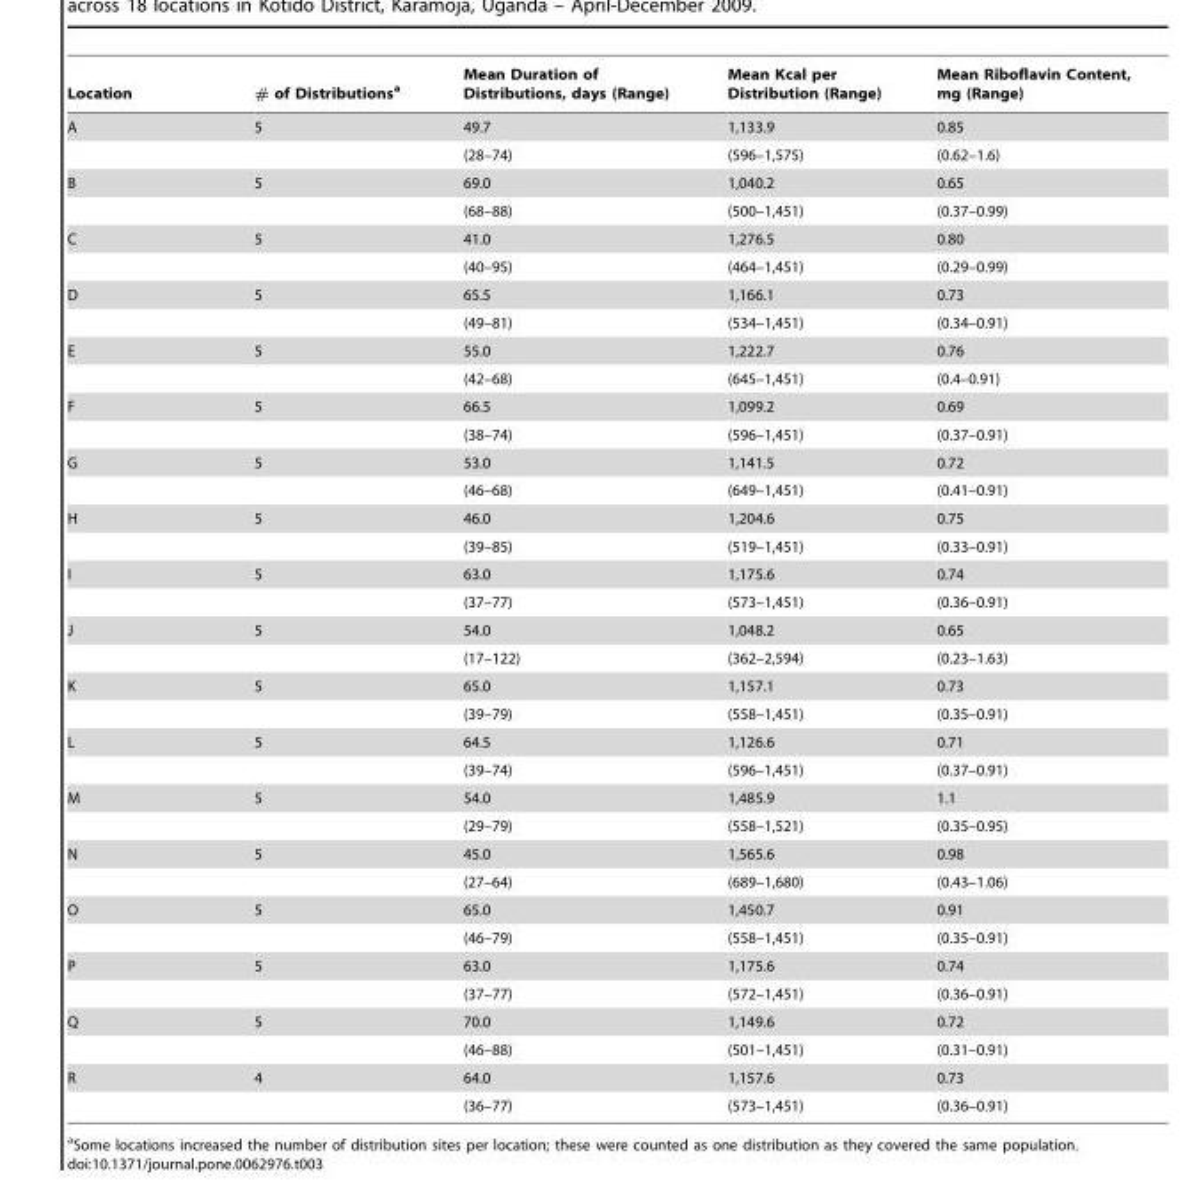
<table><thead><tr><td>Location</td><td># of Distributions<sup>a</sup></td><td>Mean Duration of Distributions, days (Range)</td><td>Mean Kcal per Distribution (Range)</td><td>Mean Riboflavin Content, mg (Range)</td></tr></thead><tbody><tr><td rowspan="2">A</td><td>5</td><td>49.7</td><td>1,133.9</td><td>0.85</td></tr><tr><td></td><td>(28–74)</td><td>(596–1,575)</td><td>(0.62–1.6)</td></tr><tr><td rowspan="2">B</td><td>5</td><td>69.0</td><td>1,040.2</td><td>0.65</td></tr><tr><td></td><td>(68–88)</td><td>(500–1,451)</td><td>(0.37–0.99)</td></tr><tr><td rowspan="2">C</td><td>5</td><td>41.0</td><td>1,276.5</td><td>0.80</td></tr><tr><td></td><td>(40–95)</td><td>(464–1,451)</td><td>(0.29–0.99)</td></tr><tr><td rowspan="2">D</td><td>5</td><td>65.5</td><td>1,166.1</td><td>0.73</td></tr><tr><td></td><td>(49–81)</td><td>(534–1,451)</td><td>(0.34–0.91)</td></tr><tr><td rowspan="2">E</td><td>5</td><td>55.0</td><td>1,222.7</td><td>0.76</td></tr><tr><td></td><td>(42–68)</td><td>(645–1,451)</td><td>(0.4–0.91)</td></tr><tr><td rowspan="2">F</td><td>5</td><td>66.5</td><td>1,099.2</td><td>0.69</td></tr><tr><td></td><td>(38–74)</td><td>(596–1,451)</td><td>(0.37–0.91)</td></tr><tr><td rowspan="2">G</td><td>5</td><td>53.0</td><td>1,141.5</td><td>0.72</td></tr><tr><td></td><td>(46–68)</td><td>(649–1,451)</td><td>(0.41–0.91)</td></tr><tr><td rowspan="2">H</td><td>5</td><td>46.0</td><td>1,204.6</td><td>0.75</td></tr><tr><td></td><td>(39–85)</td><td>(519–1,451)</td><td>(0.33–0.91)</td></tr><tr><td rowspan="2">I</td><td>5</td><td>63.0</td><td>1,175.6</td><td>0.74</td></tr><tr><td></td><td>(37–77)</td><td>(573–1,451)</td><td>(0.36–0.91)</td></tr><tr><td rowspan="2">J</td><td>5</td><td>54.0</td><td>1,048.2</td><td>0.65</td></tr><tr><td></td><td>(17–122)</td><td>(362–2,594)</td><td>(0.23–1.63)</td></tr><tr><td rowspan="2">K</td><td>5</td><td>65.0</td><td>1,157.1</td><td>0.73</td></tr><tr><td></td><td>(39–79)</td><td>(558–1,451)</td><td>(0.35–0.91)</td></tr><tr><td rowspan="2">L</td><td>5</td><td>64.5</td><td>1,126.6</td><td>0.71</td></tr><tr><td></td><td>(39–74)</td><td>(596–1,451)</td><td>(0.37–0.91)</td></tr><tr><td rowspan="2">M</td><td>5</td><td>54.0</td><td>1,485.9</td><td>1.1</td></tr><tr><td></td><td>(29–79)</td><td>(558–1,521)</td><td>(0.35–0.95)</td></tr><tr><td rowspan="2">N</td><td>5</td><td>45.0</td><td>1,565.6</td><td>0.98</td></tr><tr><td></td><td>(27–64)</td><td>(689–1,680)</td><td>(0.43–1.06)</td></tr><tr><td rowspan="2">O</td><td>5</td><td>65.0</td><td>1,450.7</td><td>0.91</td></tr><tr><td></td><td>(46–79)</td><td>(558–1,451)</td><td>(0.35–0.91)</td></tr><tr><td rowspan="2">P</td><td>5</td><td>63.0</td><td>1,175.6</td><td>0.74</td></tr><tr><td></td><td>(37–77)</td><td>(572–1,451)</td><td>(0.36–0.91)</td></tr><tr><td rowspan="2">Q</td><td>5</td><td>70.0</td><td>1,149.6</td><td>0.72</td></tr><tr><td></td><td>(46–88)</td><td>(501–1,451)</td><td>(0.31–0.91)</td></tr><tr><td rowspan="2">R</td><td>4</td><td>64.0</td><td>1,157.6</td><td>0.73</td></tr><tr><td></td><td>(36–77)</td><td>(573–1,451)</td><td>(0.36–0.91)</td></tr></tbody></table>